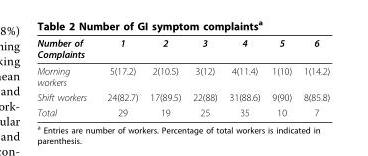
<table><thead><tr><td>Number of Complaints</td><td>1</td><td>2</td><td>3</td><td>4</td><td>5</td><td>6</td></tr></thead><tbody><tr><td>Morning workers</td><td>5(17.2)</td><td>2(10.5)</td><td>3(12)</td><td>4(11.4)</td><td>1(10)</td><td>1(14.2)</td></tr><tr><td>Shift workers</td><td>24(82.7)</td><td>17(89.5)</td><td>22(88)</td><td>31(88.6)</td><td>9(90)</td><td>8(85.8)</td></tr><tr><td>Total</td><td>29</td><td>19</td><td>25</td><td>35</td><td>10</td><td>7</td></tr></tbody></table>